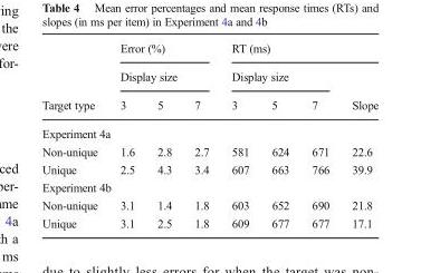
<table><thead><tr><td rowspan="3">Target type</td><td rowspan="2" colspan="3">Error (%) Display size</td><td colspan="4">RT (ms)</td></tr><tr><td colspan="3">Display size</td><td rowspan="2">Slope</td></tr><tr><td>3</td><td>5</td><td>7</td><td>3</td><td>5</td><td>7</td></tr></thead><tbody><tr><td colspan="8">Experiment 4a</td></tr><tr><td>Non-unique</td><td>1.6</td><td>2.8</td><td>2.7</td><td>581</td><td>624</td><td>671</td><td>22.6</td></tr><tr><td>Unique</td><td>2.5</td><td>4.3</td><td>3.4</td><td>607</td><td>663</td><td>766</td><td>39.9</td></tr><tr><td colspan="8">Experiment 4b</td></tr><tr><td>Non-unique</td><td>3.1</td><td>1.4</td><td>1.8</td><td>603</td><td>652</td><td>690</td><td>21.8</td></tr><tr><td>Unique</td><td>3.1</td><td>2.5</td><td>1.8</td><td>609</td><td>677</td><td>677</td><td>17.1</td></tr></tbody></table>